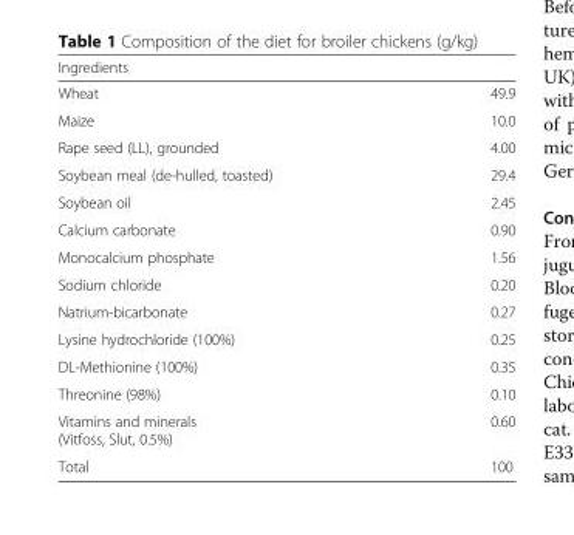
<table><thead><tr><td colspan="2">Ingredients</td></tr><tr><td>Wheat</td><td>49.9</td></tr></thead><tbody><tr><td>Maize</td><td>10.0</td></tr><tr><td>Rape seed (LL), grounded</td><td>4.00</td></tr><tr><td>Soybean meal (de-hulled, toasted)</td><td>29.4</td></tr><tr><td>Soybean oil</td><td>2.45</td></tr><tr><td>Calcium carbonate</td><td>0.90</td></tr><tr><td>Monocalcium phosphate</td><td>1.56</td></tr><tr><td>Sodium chloride</td><td>0.20</td></tr><tr><td>Natrium-bicarbonate</td><td>0.27</td></tr><tr><td>Lysine hydrochloride (100%)</td><td>0.25</td></tr><tr><td>DL-Methionine (100%)</td><td>0.35</td></tr><tr><td>Threonine (98%)</td><td>0.10</td></tr><tr><td>Vitamins and minerals (Vitfoss, Slut, 0.5%)</td><td>0.60</td></tr><tr><td>Total</td><td>100</td></tr></tbody></table>